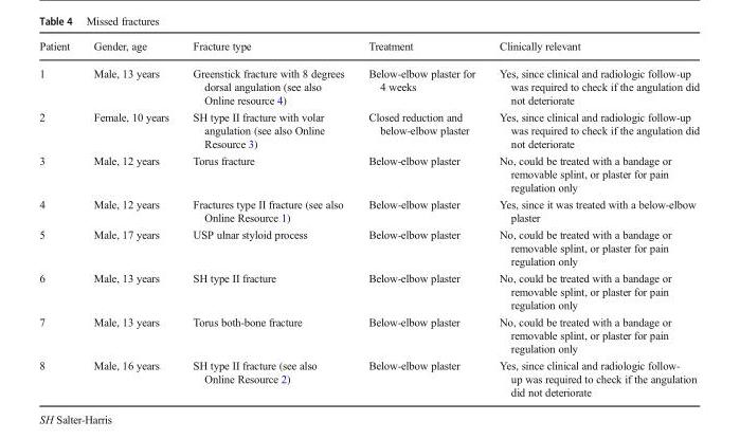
<table><thead><tr><td>Patient</td><td>Gender, age</td><td>Fracture type</td><td>Treatment</td><td>Clinically relevant</td></tr></thead><tbody><tr><td>1</td><td>Male, 13 years</td><td>Greenstick fracture with 8 degrees dorsal angulation (see also Online resource 4)</td><td>Below-elbow plaster for 4 weeks</td><td>Yes, since clinical and radiologic follow-up was required to check if the angulation did not deteriorate</td></tr><tr><td>2</td><td>Female, 10 years</td><td>SH type II fracture with volar angulation (see also Online Resource 3)</td><td>Closed reduction and below-elbow plaster</td><td>Yes, since clinical and radiologic follow-up was required to check if the angulation did not deteriorate</td></tr><tr><td>3</td><td>Male, 12 years</td><td>Torus fracture</td><td>Below-elbow plaster</td><td>No, could be treated with a bandage or removable splint, or plaster for pain regulation only</td></tr><tr><td>4</td><td>Male, 12 years</td><td>Fractures type II fracture (see also Online Resource 1)</td><td>Below-elbow plaster</td><td>Yes, since it was treated with a below-elbow plaster</td></tr><tr><td>5</td><td>Male, 17 years</td><td>USP ulnar styloid process</td><td>Below-elbow plaster</td><td>No, could be treated with a bandage or removable splint, or plaster for pain regulation only</td></tr><tr><td>6</td><td>Male, 13 years</td><td>SH type II fracture</td><td>Below-elbow plaster</td><td>No, could be treated with a bandage or removable splint, or plaster for pain regulation only</td></tr><tr><td>7</td><td>Male, 13 years</td><td>Torus both-bone fracture</td><td>Below-elbow plaster</td><td>No, could be treated with a bandage or removable splint, or plaster for pain regulation only</td></tr><tr><td>8</td><td>Male, 16 years</td><td>SH type II fracture (see also Online Resource 2)</td><td>Below-elbow plaster</td><td>Yes, since clinical and radiologic follow- up was required to check if the angulation did not deteriorate</td></tr></tbody></table>